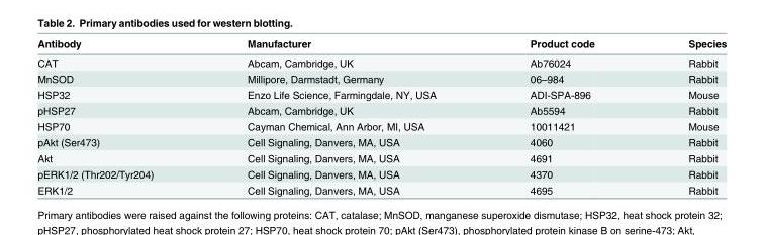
<table><thead><tr><td>Antibody</td><td>Manufacturer</td><td>Product code</td><td>Species</td></tr></thead><tbody><tr><td>CAT</td><td>Abcam, Cambridge, UK</td><td>Ab76024</td><td>Rabbit</td></tr><tr><td>MnSOD</td><td>Millipore, Darmstadt, Germany</td><td>06–984</td><td>Rabbit</td></tr><tr><td>HSP32</td><td>Enzo Life Science, Farmingdale, NY, USA</td><td>ADI-SPA-896</td><td>Mouse</td></tr><tr><td>pHSP27</td><td>Abcam, Cambridge, UK</td><td>Ab5594</td><td>Rabbit</td></tr><tr><td>HSP70</td><td>Cayman Chemical, Ann Arbor, MI, USA</td><td>10011421</td><td>Mouse</td></tr><tr><td>pAkt (Ser473)</td><td>Cell Signaling, Danvers, MA, USA</td><td>4060</td><td>Rabbit</td></tr><tr><td>Akt</td><td>Cell Signaling, Danvers, MA, USA</td><td>4691</td><td>Rabbit</td></tr><tr><td>pERK1/2 (Thr202/Tyr204)</td><td>Cell Signaling, Danvers, MA, USA</td><td>4370</td><td>Rabbit</td></tr><tr><td>ERK1/2</td><td>Cell Signaling, Danvers, MA, USA</td><td>4695</td><td>Rabbit</td></tr></tbody></table>